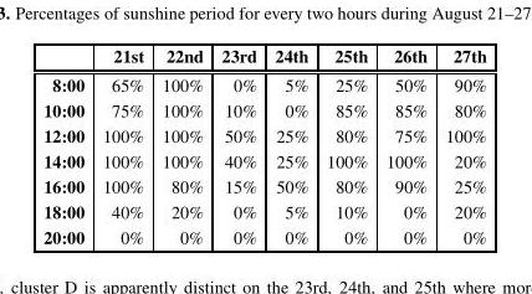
<table><thead><tr><td></td><td>21st</td><td>22nd</td><td>23rd</td><td>24th</td><td>25th</td><td>26th</td><td>27th</td></tr></thead><tbody><tr><td>8:00</td><td>65%</td><td>100%</td><td>0%</td><td>5%</td><td>25%</td><td>50%</td><td>90%</td></tr><tr><td>10:00</td><td>75%</td><td>100%</td><td>10%</td><td>0%</td><td>85%</td><td>85%</td><td>80%</td></tr><tr><td>12:00</td><td>100%</td><td>100%</td><td>50%</td><td>25%</td><td>80%</td><td>75%</td><td>100%</td></tr><tr><td>14:00</td><td>100%</td><td>100%</td><td>40%</td><td>25%</td><td>100%</td><td>100%</td><td>20%</td></tr><tr><td>16:00</td><td>100%</td><td>80%</td><td>15%</td><td>50%</td><td>80%</td><td>90%</td><td>25%</td></tr><tr><td>18:00</td><td>40%</td><td>20%</td><td>0%</td><td>5%</td><td>10%</td><td>0%</td><td>20%</td></tr><tr><td>20:00</td><td>0%</td><td>0%</td><td>0%</td><td>0%</td><td>0%</td><td>0%</td><td>0%</td></tr></tbody></table>